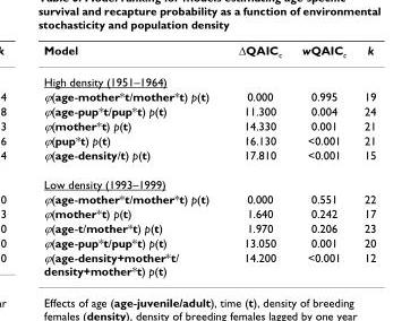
<table><thead><tr><td>Model</td><td>ΔQAIC<sub>c</sub></td><td>wQAIC<sub>c</sub></td><td>k</td></tr></thead><tbody><tr><td colspan="4">High density (1951–1964)</td></tr><tr><td>ϕ(age-mother*t/mother*t) p(t)</td><td>0.000</td><td>0.995</td><td>19</td></tr><tr><td>ϕ(age-pup*t/pup*t) p(t)</td><td>11.300</td><td>0.004</td><td>24</td></tr><tr><td>ϕ(mother*t) p(t)</td><td>14.330</td><td>0.001</td><td>21</td></tr><tr><td>ϕ(pup*t) p(t)</td><td>16.130</td><td>&lt;0.001</td><td>21</td></tr><tr><td>ϕ(age-density/t) p(t)</td><td>17.810</td><td>&lt;0.001</td><td>15</td></tr><tr><td colspan="4">Low density (1993–1999)</td></tr><tr><td>ϕ(age-mother*t/mother*t) p(t)</td><td>0.000</td><td>0.551</td><td>22</td></tr><tr><td>ϕ(mother*t) p(t)</td><td>1.640</td><td>0.242</td><td>17</td></tr><tr><td>ϕ(age-t/mother*t) p(t)</td><td>1.970</td><td>0.206</td><td>23</td></tr><tr><td>ϕ(age-pup*t/pup*t) p(t)</td><td>13.050</td><td>0.001</td><td>20</td></tr><tr><td>ϕ(age-density+mother*t/ density+mother*t) p(t)</td><td>14.200</td><td>&lt;0.001</td><td>12</td></tr></tbody></table>